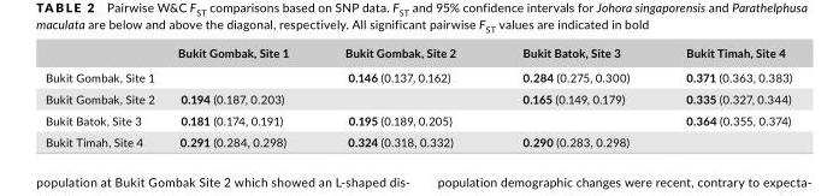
<table><thead><tr><td></td><td>Bukit Gombak, Site 1</td><td>Bukit Gombak, Site 2</td><td>Bukit Batok, Site 3</td><td>Bukit Timah, Site 4</td></tr></thead><tbody><tr><td>Bukit Gombak, Site 1</td><td></td><td>0.146 (0.137, 0.162)</td><td>0.284 (0.275, 0.300)</td><td>0.371 (0.363, 0.383)</td></tr><tr><td>Bukit Gombak, Site 2</td><td>0.194 (0.187, 0.203)</td><td></td><td>0.165 (0.149, 0.179)</td><td>0.335 (0.327, 0.344)</td></tr><tr><td>Bukit Batok, Site 3</td><td>0.181 (0.174, 0.191)</td><td>0.195 (0.189, 0.205)</td><td></td><td>0.364 (0.355, 0.374)</td></tr><tr><td>Bukit Timah, Site 4</td><td>0.291 (0.284, 0.298)</td><td>0.324 (0.318, 0.332)</td><td>0.290 (0.283, 0.298)</td><td></td></tr></tbody></table>